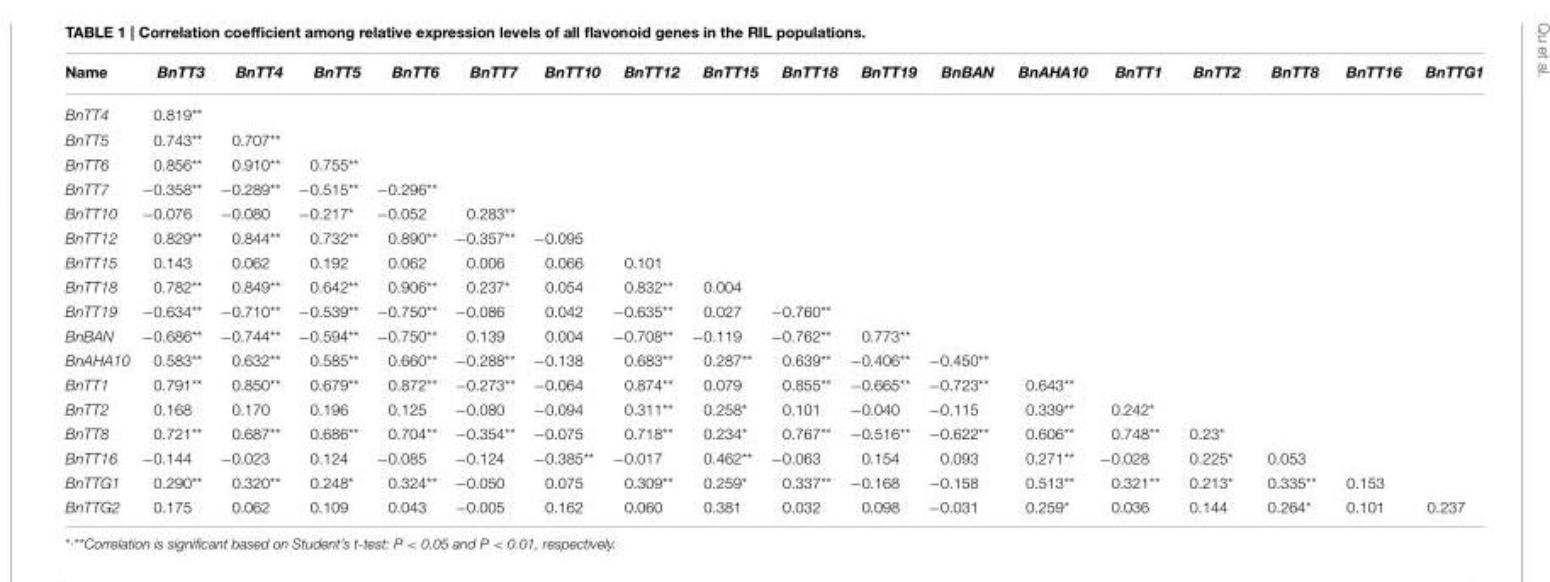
<table><thead><tr><td>Name</td><td>BnTT3</td><td>BnTT4</td><td>BnTT5</td><td>BnTT6</td><td>BnTT7</td><td>BnTT10</td><td>BnTT12</td><td>BnTT15</td><td>BnTT18</td><td>BnTT19</td><td>BnBAN</td><td>BnAHA10</td><td>BnTT1</td><td>BnTT2</td><td>BnTT8</td><td>BnTT16</td><td>BnTTG1</td></tr></thead><tbody><tr><td>BnTT4</td><td>0.819**</td><td></td><td></td><td></td><td></td><td></td><td></td><td></td><td></td><td></td><td></td><td></td><td></td><td></td><td></td><td></td><td></td></tr><tr><td>BnTT5</td><td>0.743**</td><td>0.707**</td><td></td><td></td><td></td><td></td><td></td><td></td><td></td><td></td><td></td><td></td><td></td><td></td><td></td><td></td><td></td></tr><tr><td>BnTT6</td><td>0.856**</td><td>0.910**</td><td>0.755**</td><td></td><td></td><td></td><td></td><td></td><td></td><td></td><td></td><td></td><td></td><td></td><td></td><td></td><td></td></tr><tr><td>BnTT7</td><td>−0.358**</td><td>−0.289**</td><td>−0.515**</td><td>−0.296**</td><td></td><td></td><td></td><td></td><td></td><td></td><td></td><td></td><td></td><td></td><td></td><td></td><td></td></tr><tr><td>BnTT10</td><td>−0.076</td><td>−0.080</td><td>−0.217*</td><td>−0.052</td><td>0.283**</td><td></td><td></td><td></td><td></td><td></td><td></td><td></td><td></td><td></td><td></td><td></td><td></td></tr><tr><td>BnTT12</td><td>0.829**</td><td>0.844**</td><td>0.732**</td><td>0.890**</td><td>−0.357**</td><td>−0.095</td><td></td><td></td><td></td><td></td><td></td><td></td><td></td><td></td><td></td><td></td><td></td></tr><tr><td>BnTT15</td><td>0.143</td><td>0.062</td><td>0.192</td><td>0.062</td><td>0.006</td><td>0.066</td><td>0.101</td><td></td><td></td><td></td><td></td><td></td><td></td><td></td><td></td><td></td><td></td></tr><tr><td>BnTT18</td><td>0.782**</td><td>0.849**</td><td>0.642**</td><td>0.906**</td><td>0.237*</td><td>0.054</td><td>0.832**</td><td>0.004</td><td></td><td></td><td></td><td></td><td></td><td></td><td></td><td></td><td></td></tr><tr><td>BnTT19</td><td>−0.634**</td><td>−0.710**</td><td>−0.539**</td><td>−0.750**</td><td>−0.086</td><td>0.042</td><td>−0.635**</td><td>0.027</td><td>−0.760**</td><td></td><td></td><td></td><td></td><td></td><td></td><td></td><td></td></tr><tr><td>BnBAN</td><td>−0.686**</td><td>−0.744**</td><td>−0.594**</td><td>−0.750**</td><td>0.139</td><td>0.004</td><td>−0.708**</td><td>−0.119</td><td>−0.762**</td><td>0.773**</td><td></td><td></td><td></td><td></td><td></td><td></td><td></td></tr><tr><td>BnAHA10</td><td>0.583**</td><td>0.632**</td><td>0.585**</td><td>0.660**</td><td>−0.288**</td><td>−0.138</td><td>0.683**</td><td>0.287**</td><td>0.639**</td><td>−0.406**</td><td>−0.450**</td><td></td><td></td><td></td><td></td><td></td><td></td></tr><tr><td>BnTT1</td><td>0.791**</td><td>0.850**</td><td>0.679**</td><td>0.872**</td><td>−0.273**</td><td>−0.064</td><td>0.874**</td><td>0.079</td><td>0.855**</td><td>−0.665**</td><td>−0.723**</td><td>0.643**</td><td></td><td></td><td></td><td></td><td></td></tr><tr><td>BnTT2</td><td>0.168</td><td>0.170</td><td>0.196</td><td>0.125</td><td>−0.080</td><td>−0.094</td><td>0.311**</td><td>0.258*</td><td>0.101</td><td>−0.040</td><td>−0.115</td><td>0.339**</td><td>0.242*</td><td></td><td></td><td></td><td></td></tr><tr><td>BnTT8</td><td>0.721**</td><td>0.687**</td><td>0.686**</td><td>0.704**</td><td>−0.354**</td><td>−0.075</td><td>0.718**</td><td>0.234*</td><td>0.767**</td><td>−0.516**</td><td>−0.622**</td><td>0.606**</td><td>0.748**</td><td>0.23*</td><td></td><td></td><td></td></tr><tr><td>BnTT16</td><td>−0.144</td><td>−0.023</td><td>0.124</td><td>−0.085</td><td>−0.124</td><td>−0.385**</td><td>−0.017</td><td>0.462**</td><td>−0.063</td><td>0.154</td><td>0.093</td><td>0.271**</td><td>−0.028</td><td>0.225*</td><td>0.053</td><td></td><td></td></tr><tr><td>BnTTG1</td><td>0.290**</td><td>0.320**</td><td>0.248*</td><td>0.324**</td><td>−0.050</td><td>0.075</td><td>0.309**</td><td>0.259*</td><td>0.337**</td><td>−0.168</td><td>−0.158</td><td>0.513**</td><td>0.321**</td><td>0.213*</td><td>0.335**</td><td>0.153</td><td></td></tr><tr><td>BnTTG2</td><td>0.175</td><td>0.062</td><td>0.109</td><td>0.043</td><td>−0.005</td><td>0.162</td><td>0.060</td><td>0.381</td><td>0.032</td><td>0.098</td><td>−0.031</td><td>0.259*</td><td>0.036</td><td>0.144</td><td>0.264*</td><td>0.101</td><td>0.237</td></tr></tbody></table>